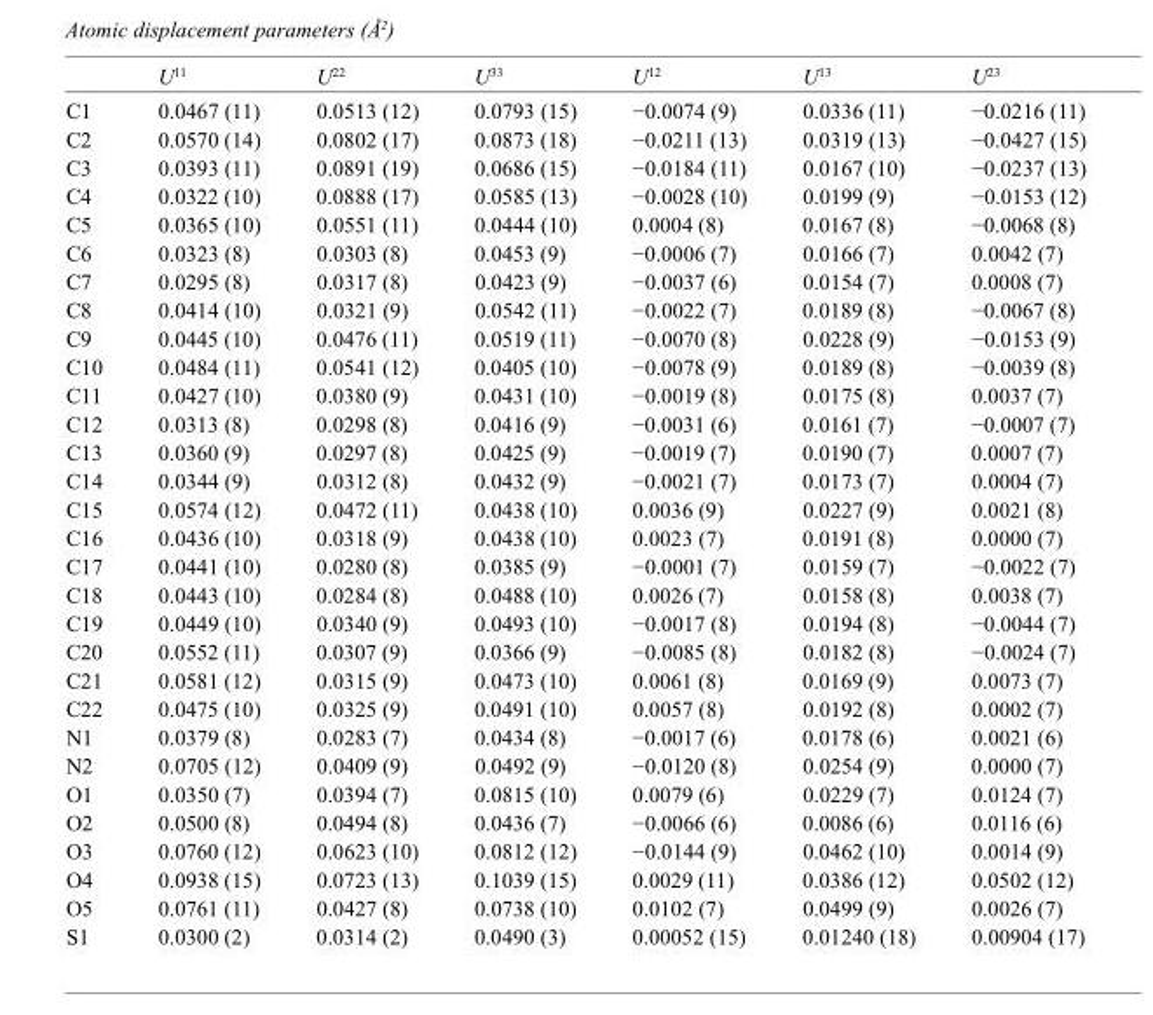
<table><thead><tr><td></td><td>U<sup>11</sup></td><td>U<sup>22</sup></td><td>U<sup>33</sup></td><td>U<sup>12</sup></td><td>U<sup>13</sup></td><td>U<sup>23</sup></td></tr></thead><tbody><tr><td>C1</td><td>0.0467 (11)</td><td>0.0513 (12)</td><td>0.0793 (15)</td><td>−0.0074 (9)</td><td>0.0336 (11)</td><td>−0.0216 (11)</td></tr><tr><td>C2</td><td>0.0570 (14)</td><td>0.0802 (17)</td><td>0.0873 (18)</td><td>−0.0211 (13)</td><td>0.0319 (13)</td><td>−0.0427 (15)</td></tr><tr><td>C3</td><td>0.0393 (11)</td><td>0.0891 (19)</td><td>0.0686 (15)</td><td>−0.0184 (11)</td><td>0.0167 (10)</td><td>−0.0237 (13)</td></tr><tr><td>C4</td><td>0.0322 (10)</td><td>0.0888 (17)</td><td>0.0585 (13)</td><td>−0.0028 (10)</td><td>0.0199 (9)</td><td>−0.0153 (12)</td></tr><tr><td>C5</td><td>0.0365 (10)</td><td>0.0551 (11)</td><td>0.0444 (10)</td><td>0.0004 (8)</td><td>0.0167 (8)</td><td>−0.0068 (8)</td></tr><tr><td>C6</td><td>0.0323 (8)</td><td>0.0303 (8)</td><td>0.0453 (9)</td><td>−0.0006 (7)</td><td>0.0166 (7)</td><td>0.0042 (7)</td></tr><tr><td>C7</td><td>0.0295 (8)</td><td>0.0317 (8)</td><td>0.0423 (9)</td><td>−0.0037 (6)</td><td>0.0154 (7)</td><td>0.0008 (7)</td></tr><tr><td>C8</td><td>0.0414 (10)</td><td>0.0321 (9)</td><td>0.0542 (11)</td><td>−0.0022 (7)</td><td>0.0189 (8)</td><td>−0.0067 (8)</td></tr><tr><td>C9</td><td>0.0445 (10)</td><td>0.0476 (11)</td><td>0.0519 (11)</td><td>−0.0070 (8)</td><td>0.0228 (9)</td><td>−0.0153 (9)</td></tr><tr><td>C10</td><td>0.0484 (11)</td><td>0.0541 (12)</td><td>0.0405 (10)</td><td>−0.0078 (9)</td><td>0.0189 (8)</td><td>−0.0039 (8)</td></tr><tr><td>C11</td><td>0.0427 (10)</td><td>0.0380 (9)</td><td>0.0431 (10)</td><td>−0.0019 (8)</td><td>0.0175 (8)</td><td>0.0037 (7)</td></tr><tr><td>C12</td><td>0.0313 (8)</td><td>0.0298 (8)</td><td>0.0416 (9)</td><td>−0.0031 (6)</td><td>0.0161 (7)</td><td>−0.0007 (7)</td></tr><tr><td>C13</td><td>0.0360 (9)</td><td>0.0297 (8)</td><td>0.0425 (9)</td><td>−0.0019 (7)</td><td>0.0190 (7)</td><td>0.0007 (7)</td></tr><tr><td>C14</td><td>0.0344 (9)</td><td>0.0312 (8)</td><td>0.0432 (9)</td><td>−0.0021 (7)</td><td>0.0173 (7)</td><td>0.0004 (7)</td></tr><tr><td>C15</td><td>0.0574 (12)</td><td>0.0472 (11)</td><td>0.0438 (10)</td><td>0.0036 (9)</td><td>0.0227 (9)</td><td>0.0021 (8)</td></tr><tr><td>C16</td><td>0.0436 (10)</td><td>0.0318 (9)</td><td>0.0438 (10)</td><td>0.0023 (7)</td><td>0.0191 (8)</td><td>0.0000 (7)</td></tr><tr><td>C17</td><td>0.0441 (10)</td><td>0.0280 (8)</td><td>0.0385 (9)</td><td>−0.0001 (7)</td><td>0.0159 (7)</td><td>−0.0022 (7)</td></tr><tr><td>C18</td><td>0.0443 (10)</td><td>0.0284 (8)</td><td>0.0488 (10)</td><td>0.0026 (7)</td><td>0.0158 (8)</td><td>0.0038 (7)</td></tr><tr><td>C19</td><td>0.0449 (10)</td><td>0.0340 (9)</td><td>0.0493 (10)</td><td>−0.0017 (8)</td><td>0.0194 (8)</td><td>−0.0044 (7)</td></tr><tr><td>C20</td><td>0.0552 (11)</td><td>0.0307 (9)</td><td>0.0366 (9)</td><td>−0.0085 (8)</td><td>0.0182 (8)</td><td>−0.0024 (7)</td></tr><tr><td>C21</td><td>0.0581 (12)</td><td>0.0315 (9)</td><td>0.0473 (10)</td><td>0.0061 (8)</td><td>0.0169 (9)</td><td>0.0073 (7)</td></tr><tr><td>C22</td><td>0.0475 (10)</td><td>0.0325 (9)</td><td>0.0491 (10)</td><td>0.0057 (8)</td><td>0.0192 (8)</td><td>0.0002 (7)</td></tr><tr><td>N1</td><td>0.0379 (8)</td><td>0.0283 (7)</td><td>0.0434 (8)</td><td>−0.0017 (6)</td><td>0.0178 (6)</td><td>0.0021 (6)</td></tr><tr><td>N2</td><td>0.0705 (12)</td><td>0.0409 (9)</td><td>0.0492 (9)</td><td>−0.0120 (8)</td><td>0.0254 (9)</td><td>0.0000 (7)</td></tr><tr><td>O1</td><td>0.0350 (7)</td><td>0.0394 (7)</td><td>0.0815 (10)</td><td>0.0079 (6)</td><td>0.0229 (7)</td><td>0.0124 (7)</td></tr><tr><td>O2</td><td>0.0500 (8)</td><td>0.0494 (8)</td><td>0.0436 (7)</td><td>−0.0066 (6)</td><td>0.0086 (6)</td><td>0.0116 (6)</td></tr><tr><td>O3</td><td>0.0760 (12)</td><td>0.0623 (10)</td><td>0.0812 (12)</td><td>−0.0144 (9)</td><td>0.0462 (10)</td><td>0.0014 (9)</td></tr><tr><td>O4</td><td>0.0938 (15)</td><td>0.0723 (13)</td><td>0.1039 (15)</td><td>0.0029 (11)</td><td>0.0386 (12)</td><td>0.0502 (12)</td></tr><tr><td>O5</td><td>0.0761 (11)</td><td>0.0427 (8)</td><td>0.0738 (10)</td><td>0.0102 (7)</td><td>0.0499 (9)</td><td>0.0026 (7)</td></tr><tr><td>S1</td><td>0.0300 (2)</td><td>0.0314 (2)</td><td>0.0490 (3)</td><td>0.00052 (15)</td><td>0.01240 (18)</td><td>0.00904 (17)</td></tr></tbody></table>